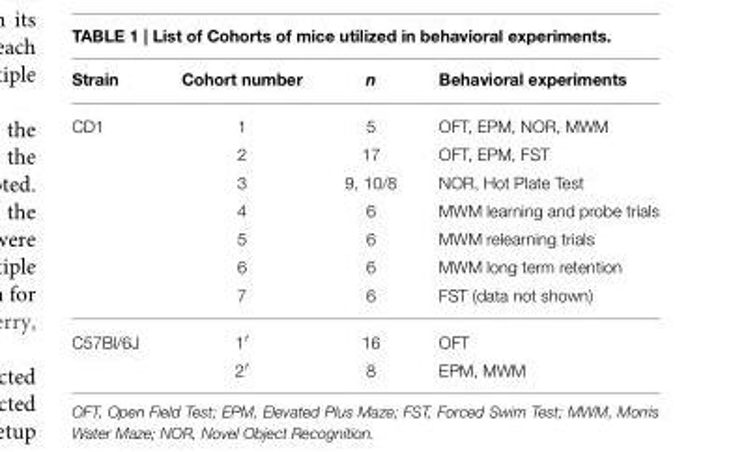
<table><thead><tr><td>Strain</td><td>Cohort number</td><td>n</td><td>Behavioral experiments</td></tr></thead><tbody><tr><td rowspan="7">CD1</td><td>1</td><td>5</td><td>OFT, EPM, NOR, MWM</td></tr><tr><td>2</td><td>17</td><td>OFT, EPM, FST</td></tr><tr><td>3</td><td>9, 10/8</td><td>NOR, Hot Plate Test</td></tr><tr><td>4</td><td>6</td><td>MWM learning and probe trials</td></tr><tr><td>5</td><td>6</td><td>MWM relearning trials</td></tr><tr><td>6</td><td>6</td><td>MWM long term retention</td></tr><tr><td>7</td><td>6</td><td>FST (data not shown)</td></tr><tr><td rowspan="2">C57Bl/6J</td><td>1′</td><td>16</td><td>OFT</td></tr><tr><td>2′</td><td>8</td><td>EPM, MWM</td></tr></tbody></table>